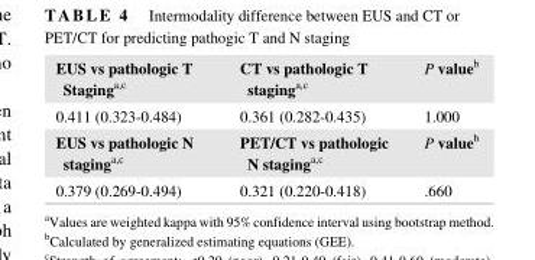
<table><tbody><tr><td>EUS vs pathologic T Staginga<sup>,</sup>c</td><td>CT vs pathologic T staginga<sup>,</sup>c</td><td>P valueb</td></tr><tr><td>0.411 (0.323- 0.484)</td><td>0.361 (0.282- 0.435)</td><td>1.000</td></tr><tr><td>EUS vs pathologic N staginga<sup>,</sup>c</td><td>PET/CT vs pathologic N staginga<sup>,</sup>c</td><td>P valueb</td></tr><tr><td>0.379 (0.269- 0.494)</td><td>0.321 (0.220- 0.418)</td><td>.660</td></tr></tbody></table>